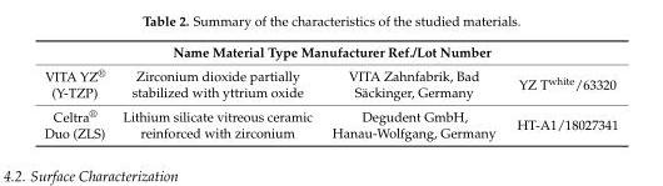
<table><thead><tr><td colspan="4">Name Material Type Manufacturer Ref./Lot Number</td></tr><tr><td>VITA YZ<sup>®</sup> (Y-TZP)</td><td>Zirconium dioxide partially stabilized with yttrium oxide</td><td>VITA Zahnfabrik, Bad Säckinger, Germany</td><td>YZ T<sup>white</sup>/63320</td></tr></thead><tbody><tr><td>Celtra<sup>®</sup> Duo (ZLS)</td><td>Lithium silicate vitreous ceramic reinforced with zirconium</td><td>Degudent GmbH, Hanau-Wolfgang, Germany</td><td>HT-A1/18027341</td></tr></tbody></table>